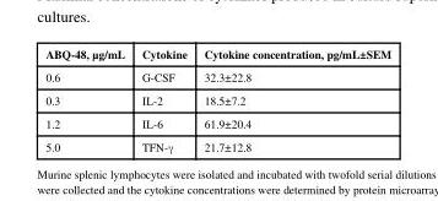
<table><thead><tr><td>ABQ-48, μg/mL</td><td>Cytokine</td><td>Cytokine concentration, pg/mL±SEM</td></tr></thead><tbody><tr><td>0.6</td><td>G-CSF</td><td>32.3±22.8</td></tr><tr><td>0.3</td><td>IL-2</td><td>18.5±7.2</td></tr><tr><td>1.2</td><td>IL-6</td><td>61.9±20.4</td></tr><tr><td>5.0</td><td>TFN-γ</td><td>21.7±12.8</td></tr></tbody></table>